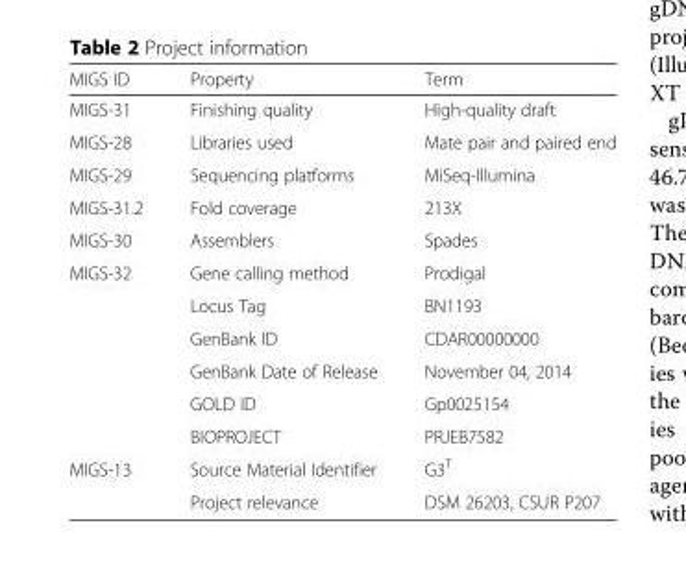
<table><thead><tr><td>MIGS ID</td><td>Property</td><td>Term</td></tr></thead><tbody><tr><td>MIGS-31</td><td>Finishing quality</td><td>High-quality draft</td></tr><tr><td>MIGS-28</td><td>Libraries used</td><td>Mate pair and paired end</td></tr><tr><td>MIGS-29</td><td>Sequencing platforms</td><td>MiSeq-Illumina</td></tr><tr><td>MIGS-31.2</td><td>Fold coverage</td><td>213X</td></tr><tr><td>MIGS-30</td><td>Assemblers</td><td>Spades</td></tr><tr><td rowspan="6">MIGS-32</td><td>Gene calling method</td><td>Prodigal</td></tr><tr><td>Locus Tag</td><td>BN1193</td></tr><tr><td>GenBank ID</td><td>CDAR00000000</td></tr><tr><td>GenBank Date of Release</td><td>November 04, 2014</td></tr><tr><td>GOLD ID</td><td>Gp0025154</td></tr><tr><td>BIOPROJECT</td><td>PRJEB7582</td></tr><tr><td rowspan="2">MIGS-13</td><td>Source Material Identifier</td><td>G3<sup>T</sup></td></tr><tr><td>Project relevance</td><td>DSM 26203, CSUR P207</td></tr></tbody></table>